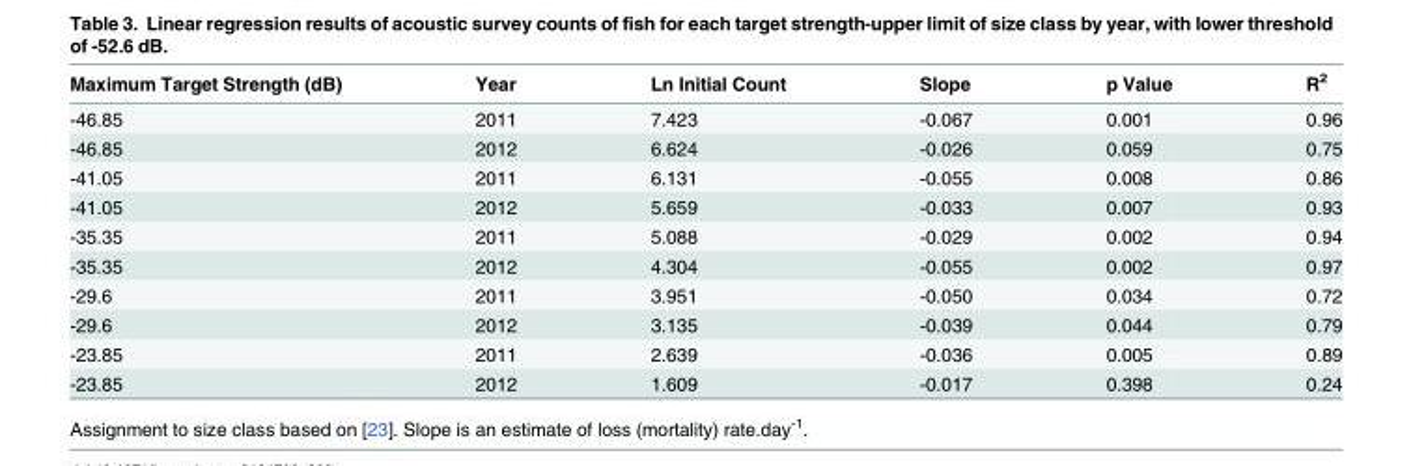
<table><thead><tr><td>Maximum Target Strength (dB)</td><td>Year</td><td>Ln Initial Count</td><td>Slope</td><td>p Value</td><td>R<sup>2</sup></td></tr></thead><tbody><tr><td>-46.85</td><td>2011</td><td>7.423</td><td>-0.067</td><td>0.001</td><td>0.96</td></tr><tr><td>-46.85</td><td>2012</td><td>6.624</td><td>-0.026</td><td>0.059</td><td>0.75</td></tr><tr><td>-41.05</td><td>2011</td><td>6.131</td><td>-0.055</td><td>0.008</td><td>0.86</td></tr><tr><td>-41.05</td><td>2012</td><td>5.659</td><td>-0.033</td><td>0.007</td><td>0.93</td></tr><tr><td>-35.35</td><td>2011</td><td>5.088</td><td>-0.029</td><td>0.002</td><td>0.94</td></tr><tr><td>-35.35</td><td>2012</td><td>4.304</td><td>-0.055</td><td>0.002</td><td>0.97</td></tr><tr><td>-29.6</td><td>2011</td><td>3.951</td><td>-0.050</td><td>0.034</td><td>0.72</td></tr><tr><td>-29.6</td><td>2012</td><td>3.135</td><td>-0.039</td><td>0.044</td><td>0.79</td></tr><tr><td>-23.85</td><td>2011</td><td>2.639</td><td>-0.036</td><td>0.005</td><td>0.89</td></tr><tr><td>-23.85</td><td>2012</td><td>1.609</td><td>-0.017</td><td>0.398</td><td>0.24</td></tr></tbody></table>